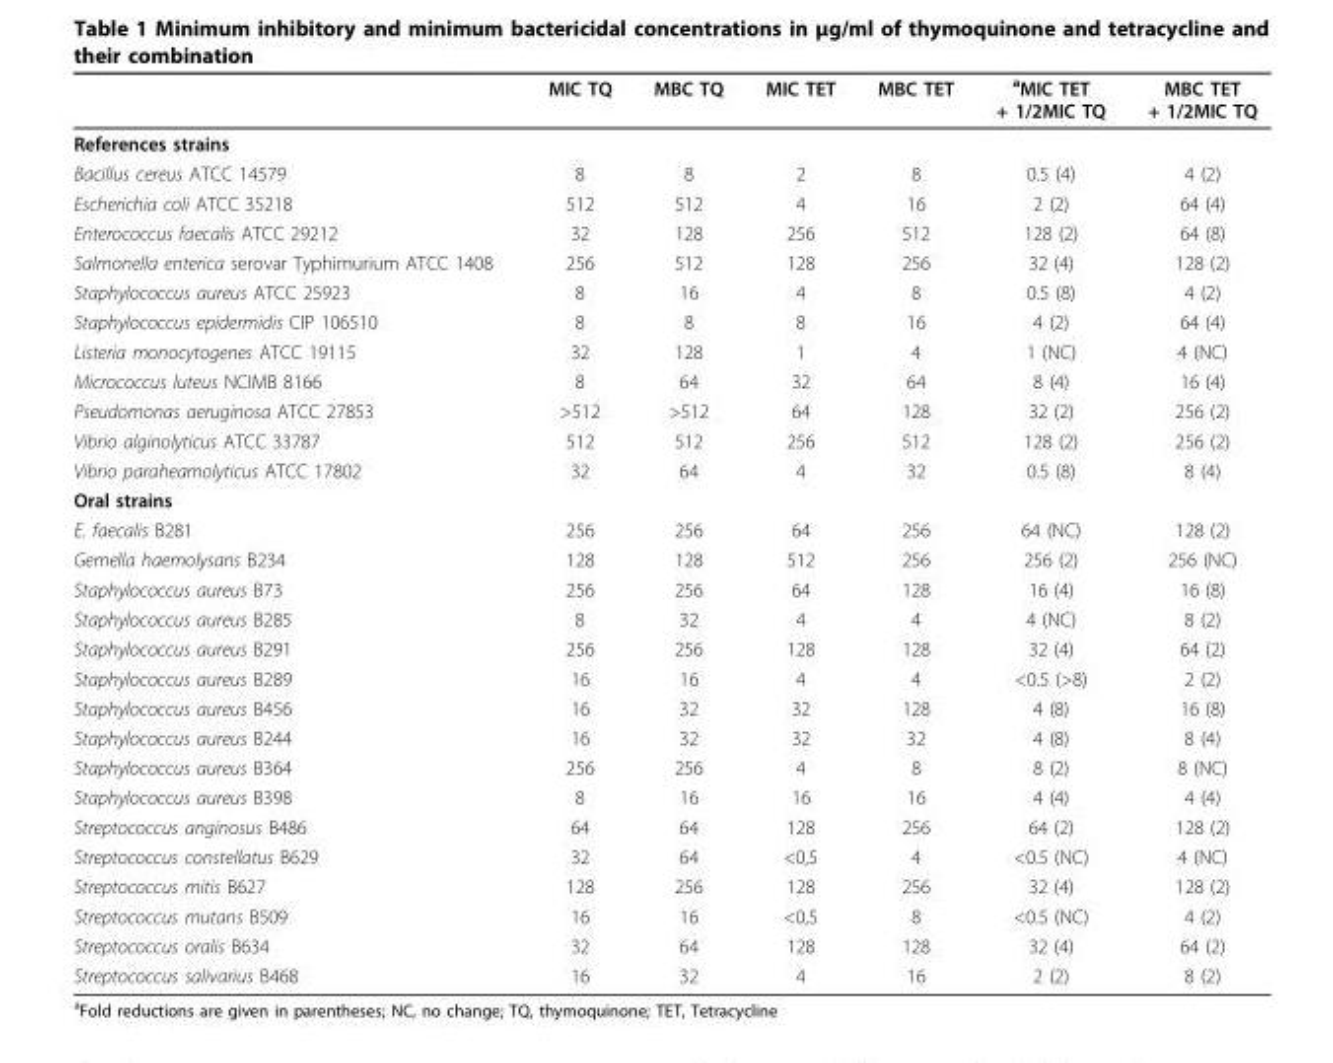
<table><thead><tr><td></td><td>MIC TQ</td><td>MBC TQ</td><td>MIC TET</td><td>MBC TET</td><td><sup>a</sup>MIC TET + 1/2MIC TQ</td><td>MBC TET + 1/2MIC TQ</td></tr></thead><tbody><tr><td colspan="7">References strains</td></tr><tr><td>Bacillus cereus ATCC 14579</td><td>8</td><td>8</td><td>2</td><td>8</td><td>0.5 (4)</td><td>4 (2)</td></tr><tr><td>Escherichia coli ATCC 35218</td><td>512</td><td>512</td><td>4</td><td>16</td><td>2 (2)</td><td>64 (4)</td></tr><tr><td>Enterococcus faecalis ATCC 29212</td><td>32</td><td>128</td><td>256</td><td>512</td><td>128 (2)</td><td>64 (8)</td></tr><tr><td>Salmonella enterica serovar Typhimurium ATCC 1408</td><td>256</td><td>512</td><td>128</td><td>256</td><td>32 (4)</td><td>128 (2)</td></tr><tr><td>Staphylococcus aureus ATCC 25923</td><td>8</td><td>16</td><td>4</td><td>8</td><td>0.5 (8)</td><td>4 (2)</td></tr><tr><td>Staphylococcus epidermidis CIP 106510</td><td>8</td><td>8</td><td>8</td><td>16</td><td>4 (2)</td><td>64 (4)</td></tr><tr><td>Listeria monocytogenes ATCC 19115</td><td>32</td><td>128</td><td>1</td><td>4</td><td>1 (NC)</td><td>4 (NC)</td></tr><tr><td>Micrococcus luteus NCIMB 8166</td><td>8</td><td>64</td><td>32</td><td>64</td><td>8 (4)</td><td>16 (4)</td></tr><tr><td>Pseudomonas aeruginosa ATCC 27853</td><td>&gt;512</td><td>&gt;512</td><td>64</td><td>128</td><td>32 (2)</td><td>256 (2)</td></tr><tr><td>Vibrio alginolyticus ATCC 33787</td><td>512</td><td>512</td><td>256</td><td>512</td><td>128 (2)</td><td>256 (2)</td></tr><tr><td>Vibrio paraheamolyticus ATCC 17802</td><td>32</td><td>64</td><td>4</td><td>32</td><td>0.5 (8)</td><td>8 (4)</td></tr><tr><td colspan="7">Oral strains</td></tr><tr><td>E. faecalis B281</td><td>256</td><td>256</td><td>64</td><td>256</td><td>64 (NC)</td><td>128 (2)</td></tr><tr><td>Gemella haemolysans B234</td><td>128</td><td>128</td><td>512</td><td>256</td><td>256 (2)</td><td>256 (NC)</td></tr><tr><td>Staphylococcus aureus B73</td><td>256</td><td>256</td><td>64</td><td>128</td><td>16 (4)</td><td>16 (8)</td></tr><tr><td>Staphylococcus aureus B285</td><td>8</td><td>32</td><td>4</td><td>4</td><td>4 (NC)</td><td>8 (2)</td></tr><tr><td>Staphylococcus aureus B291</td><td>256</td><td>256</td><td>128</td><td>128</td><td>32 (4)</td><td>64 (2)</td></tr><tr><td>Staphylococcus aureus B289</td><td>16</td><td>16</td><td>4</td><td>4</td><td>&lt;0.5 (&gt;8)</td><td>2 (2)</td></tr><tr><td>Staphylococcus aureus B456</td><td>16</td><td>32</td><td>32</td><td>128</td><td>4 (8)</td><td>16 (8)</td></tr><tr><td>Staphylococcus aureus B244</td><td>16</td><td>32</td><td>32</td><td>32</td><td>4 (8)</td><td>8 (4)</td></tr><tr><td>Staphylococcus aureus B364</td><td>256</td><td>256</td><td>4</td><td>8</td><td>8 (2)</td><td>8 (NC)</td></tr><tr><td>Staphylococcus aureus B398</td><td>8</td><td>16</td><td>16</td><td>16</td><td>4 (4)</td><td>4 (4)</td></tr><tr><td>Streptococcus anginosus B486</td><td>64</td><td>64</td><td>128</td><td>256</td><td>64 (2)</td><td>128 (2)</td></tr><tr><td>Streptococcus constellatus B629</td><td>32</td><td>64</td><td>&lt;0,5</td><td>4</td><td>&lt;0.5 (NC)</td><td>4 (NC)</td></tr><tr><td>Streptococcus mitis B627</td><td>128</td><td>256</td><td>128</td><td>256</td><td>32 (4)</td><td>128 (2)</td></tr><tr><td>Streptococcus mutans B509</td><td>16</td><td>16</td><td>&lt;0,5</td><td>8</td><td>&lt;0.5 (NC)</td><td>4 (2)</td></tr><tr><td>Streptococcus oralis B634</td><td>32</td><td>64</td><td>128</td><td>128</td><td>32 (4)</td><td>64 (2)</td></tr><tr><td>Streptococcus salivarius B468</td><td>16</td><td>32</td><td>4</td><td>16</td><td>2 (2)</td><td>8 (2)</td></tr></tbody></table>